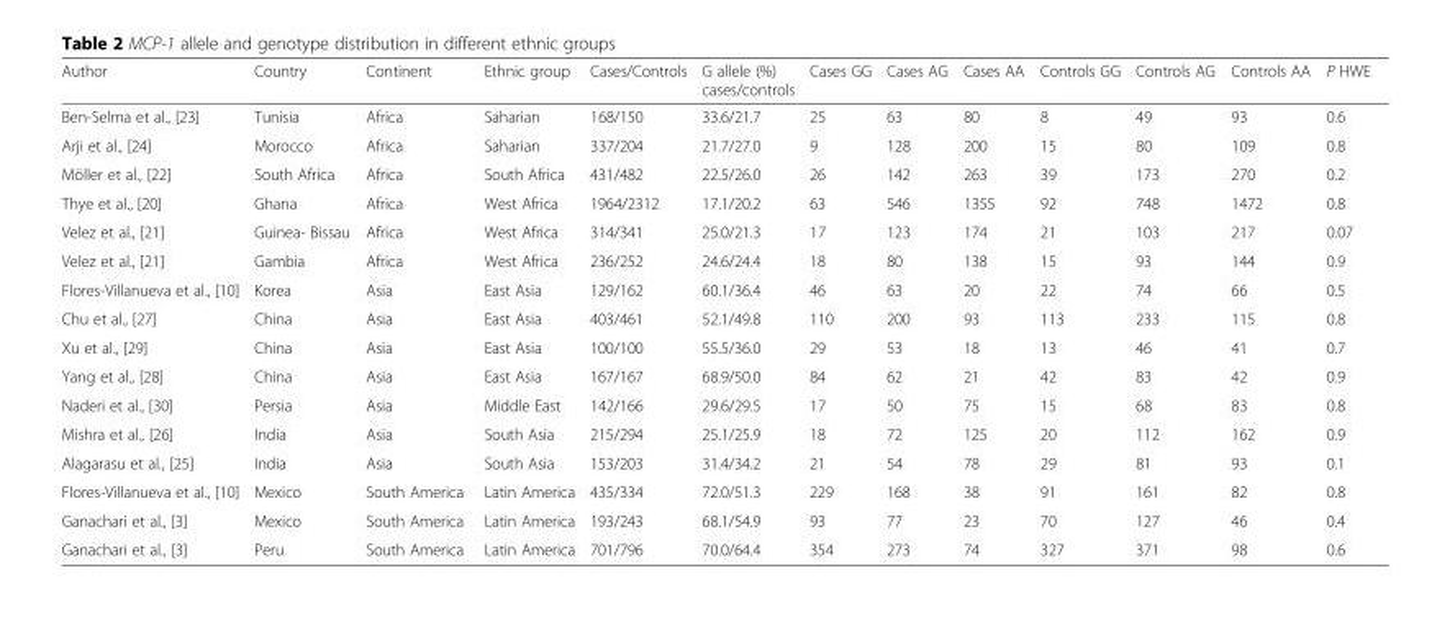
<table><thead><tr><td>Author</td><td>Country</td><td>Continent</td><td>Ethnic group</td><td>Cases/Controls</td><td>G allele (%) cases/controls</td><td>Cases GG</td><td>Cases AG</td><td>Cases AA</td><td>Controls GG</td><td>Controls AG</td><td>Controls AA</td><td>P HWE</td></tr></thead><tbody><tr><td>Ben-Selma et al., [23]</td><td>Tunisia</td><td>Africa</td><td>Saharian</td><td>168/150</td><td>33.6/21.7</td><td>25</td><td>63</td><td>80</td><td>8</td><td>49</td><td>93</td><td>0.6</td></tr><tr><td>Arji et al., [24]</td><td>Morocco</td><td>Africa</td><td>Saharian</td><td>337/204</td><td>21.7/27.0</td><td>9</td><td>128</td><td>200</td><td>15</td><td>80</td><td>109</td><td>0.8</td></tr><tr><td>Möller et al., [22]</td><td>South Africa</td><td>Africa</td><td>South Africa</td><td>431/482</td><td>22.5/26.0</td><td>26</td><td>142</td><td>263</td><td>39</td><td>173</td><td>270</td><td>0.2</td></tr><tr><td>Thye et al., [20]</td><td>Ghana</td><td>Africa</td><td>West Africa</td><td>1964/2312</td><td>17.1/20.2</td><td>63</td><td>546</td><td>1355</td><td>92</td><td>748</td><td>1472</td><td>0.8</td></tr><tr><td>Velez et al., [21]</td><td>Guinea- Bissau</td><td>Africa</td><td>West Africa</td><td>314/341</td><td>25.0/21.3</td><td>17</td><td>123</td><td>174</td><td>21</td><td>103</td><td>217</td><td>0.07</td></tr><tr><td>Velez et al., [21]</td><td>Gambia</td><td>Africa</td><td>West Africa</td><td>236/252</td><td>24.6/24.4</td><td>18</td><td>80</td><td>138</td><td>15</td><td>93</td><td>144</td><td>0.9</td></tr><tr><td>Flores-Villanueva et al., [10]</td><td>Korea</td><td>Asia</td><td>East Asia</td><td>129/162</td><td>60.1/36.4</td><td>46</td><td>63</td><td>20</td><td>22</td><td>74</td><td>66</td><td>0.5</td></tr><tr><td>Chu et al., [27]</td><td>China</td><td>Asia</td><td>East Asia</td><td>403/461</td><td>52.1/49.8</td><td>110</td><td>200</td><td>93</td><td>113</td><td>233</td><td>115</td><td>0.8</td></tr><tr><td>Xu et al., [29]</td><td>China</td><td>Asia</td><td>East Asia</td><td>100/100</td><td>55.5/36.0</td><td>29</td><td>53</td><td>18</td><td>13</td><td>46</td><td>41</td><td>0.7</td></tr><tr><td>Yang et al., [28]</td><td>China</td><td>Asia</td><td>East Asia</td><td>167/167</td><td>68.9/50.0</td><td>84</td><td>62</td><td>21</td><td>42</td><td>83</td><td>42</td><td>0.9</td></tr><tr><td>Naderi et al., [30]</td><td>Persia</td><td>Asia</td><td>Middle East</td><td>142/166</td><td>29.6/29.5</td><td>17</td><td>50</td><td>75</td><td>15</td><td>68</td><td>83</td><td>0.8</td></tr><tr><td>Mishra et al., [26]</td><td>India</td><td>Asia</td><td>South Asia</td><td>215/294</td><td>25.1/25.9</td><td>18</td><td>72</td><td>125</td><td>20</td><td>112</td><td>162</td><td>0.9</td></tr><tr><td>Alagarasu et al., [25]</td><td>India</td><td>Asia</td><td>South Asia</td><td>153/203</td><td>31.4/34.2</td><td>21</td><td>54</td><td>78</td><td>29</td><td>81</td><td>93</td><td>0.1</td></tr><tr><td>Flores-Villanueva et al., [10]</td><td>Mexico</td><td>South America</td><td>Latin America</td><td>435/334</td><td>72.0/51.3</td><td>229</td><td>168</td><td>38</td><td>91</td><td>161</td><td>82</td><td>0.8</td></tr><tr><td>Ganachari et al., [3]</td><td>Mexico</td><td>South America</td><td>Latin America</td><td>193/243</td><td>68.1/54.9</td><td>93</td><td>77</td><td>23</td><td>70</td><td>127</td><td>46</td><td>0.4</td></tr><tr><td>Ganachari et al., [3]</td><td>Peru</td><td>South America</td><td>Latin America</td><td>701/796</td><td>70.0/64.4</td><td>354</td><td>273</td><td>74</td><td>327</td><td>371</td><td>98</td><td>0.6</td></tr></tbody></table>